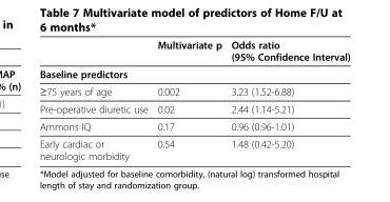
<table><thead><tr><td></td><td>Multivariate p</td><td>Odds ratio (95% Confidence Interval)</td></tr></thead><tbody><tr><td colspan="3">Baseline predictors</td></tr><tr><td>≥75 years of age</td><td>0.002</td><td>3.23 (1.52-6.88)</td></tr><tr><td>Pre-operative diuretic use</td><td>0.02</td><td>2.44 (1.14-5.21)</td></tr><tr><td>Ammons IQ</td><td>0.17</td><td>0.96 (0.96-1.01)</td></tr><tr><td>Early cardiac or neurologic morbidity</td><td>0.54</td><td>1.48 (0.42-5.20)</td></tr></tbody></table>